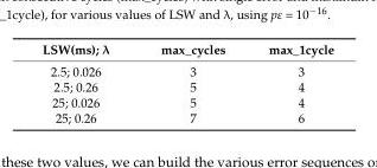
<table><thead><tr><td>LSW(ms); λ</td><td>max_cycles</td><td>max_1cycle</td></tr></thead><tbody><tr><td>2.5; 0.026</td><td>3</td><td>3</td></tr><tr><td>2.5; 0.26</td><td>5</td><td>4</td></tr><tr><td>25; 0.026</td><td>5</td><td>4</td></tr><tr><td>25; 0.26</td><td>7</td><td>6</td></tr></tbody></table>